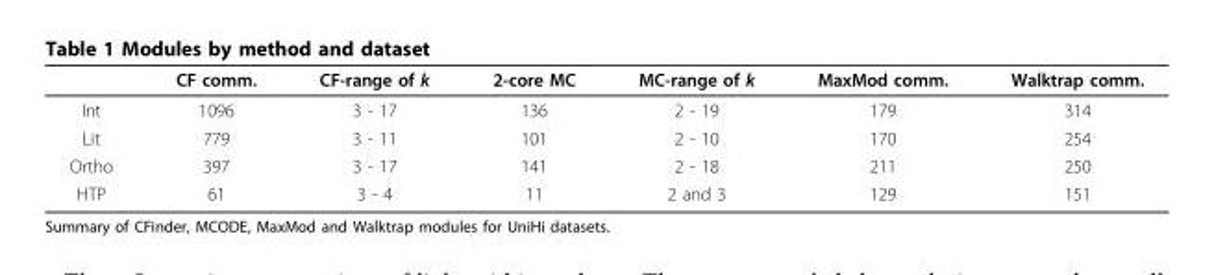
<table><thead><tr><td></td><td>CF comm.</td><td>CF-range of k</td><td>2-core MC</td><td>MC-range of k</td><td>MaxMod comm.</td><td>Walktrap comm.</td></tr></thead><tbody><tr><td>Int</td><td>1096</td><td>3 - 17</td><td>136</td><td>2 - 19</td><td>179</td><td>314</td></tr><tr><td>Lit</td><td>779</td><td>3 - 11</td><td>101</td><td>2 - 10</td><td>170</td><td>254</td></tr><tr><td>Ortho</td><td>397</td><td>3 - 17</td><td>141</td><td>2 - 18</td><td>211</td><td>250</td></tr><tr><td>HTP</td><td>61</td><td>3 - 4</td><td>11</td><td>2 and 3</td><td>129</td><td>151</td></tr></tbody></table>